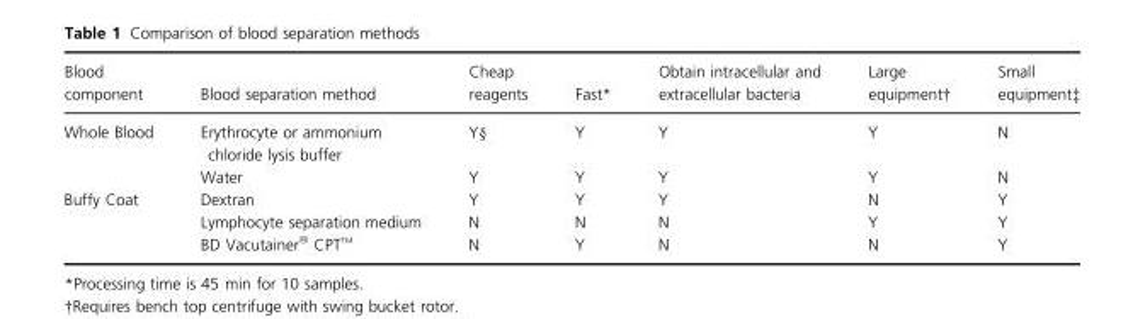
<table><thead><tr><td>Blood component</td><td>Blood separation method</td><td>Cheap reagents</td><td>Fast*</td><td>Obtain intracellular and extracellular bacteria</td><td>Large equipment†</td><td>Small equipment‡</td></tr></thead><tbody><tr><td rowspan="2">Whole Blood</td><td>Erythrocyte or ammonium chloride lysis buffer</td><td>Y§</td><td>Y</td><td>Y</td><td>Y</td><td>N</td></tr><tr><td>Water</td><td>Y</td><td>Y</td><td>Y</td><td>Y</td><td>N</td></tr><tr><td rowspan="3">Buffy Coat</td><td>Dextran</td><td>Y</td><td>Y</td><td>Y</td><td>N</td><td>Y</td></tr><tr><td>Lymphocyte separation medium</td><td>N</td><td>N</td><td>N</td><td>Y</td><td>Y</td></tr><tr><td>BD Vacutainer� CPT TM</td><td>N</td><td>Y</td><td>N</td><td>N</td><td>Y</td></tr></tbody></table>